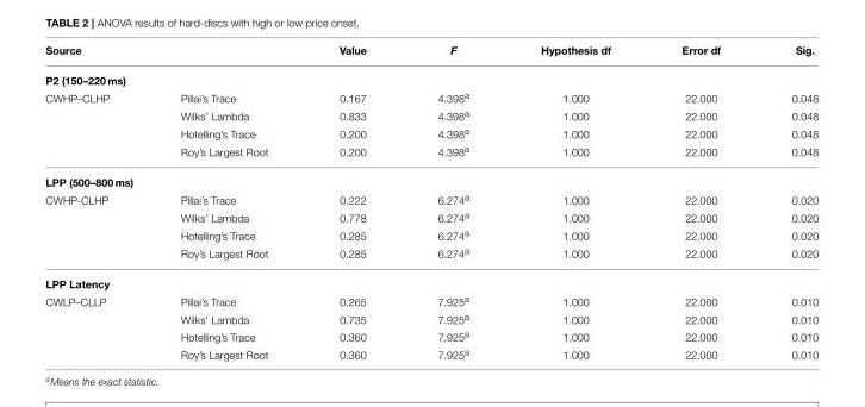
<table><thead><tr><td colspan="2">Source</td><td>Value</td><td>F</td><td>Hypothesis df</td><td>Error df</td><td>Sig.</td></tr><tr><td colspan="7">P2 (150–220 ms)</td></tr><tr><td>CWHP–CLHP</td><td>Pillai’s Trace</td><td>0.167</td><td>4.398<sup>a</sup></td><td>1.000</td><td>22.000</td><td>0.048</td></tr></thead><tbody><tr><td></td><td>Wilks’ Lambda</td><td>0.833</td><td>4.398<sup>a</sup></td><td>1.000</td><td>22.000</td><td>0.048</td></tr><tr><td></td><td>Hotelling’s Trace</td><td>0.200</td><td>4.398<sup>a</sup></td><td>1.000</td><td>22.000</td><td>0.048</td></tr><tr><td></td><td>Roy’s Largest Root</td><td>0.200</td><td>4.398<sup>a</sup></td><td>1.000</td><td>22.000</td><td>0.048</td></tr><tr><td colspan="7">LPP (500–800 ms)</td></tr><tr><td rowspan="4">CWHP-CLHP</td><td>Pillai’s Trace</td><td>0.222</td><td>6.274<sup>a</sup></td><td>1.000</td><td>22.000</td><td>0.020</td></tr><tr><td>Wilks’ Lambda</td><td>0.778</td><td>6.274<sup>a</sup></td><td>1.000</td><td>22.000</td><td>0.020</td></tr><tr><td>Hotelling’s Trace</td><td>0.285</td><td>6.274<sup>a</sup></td><td>1.000</td><td>22.000</td><td>0.020</td></tr><tr><td>Roy’s Largest Root</td><td>0.285</td><td>6.274<sup>a</sup></td><td>1.000</td><td>22.000</td><td>0.020</td></tr><tr><td colspan="7">LPP Latency</td></tr><tr><td rowspan="4">CWLP–CLLP</td><td>Pillai’s Trace</td><td>0.265</td><td>7.925<sup>a</sup></td><td>1.000</td><td>22.000</td><td>0.010</td></tr><tr><td>Wilks’ Lambda</td><td>0.735</td><td>7.925<sup>a</sup></td><td>1.000</td><td>22.000</td><td>0.010</td></tr><tr><td>Hotelling’s Trace</td><td>0.360</td><td>7.925<sup>a</sup></td><td>1.000</td><td>22.000</td><td>0.010</td></tr><tr><td>Roy’s Largest Root</td><td>0.360</td><td>7.925<sup>a</sup></td><td>1.000</td><td>22.000</td><td>0.010</td></tr></tbody></table>